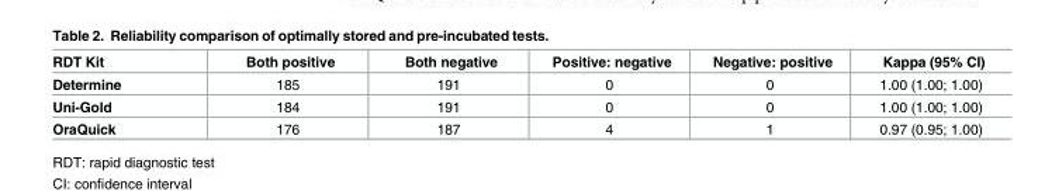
<table><thead><tr><td>RDT Kit</td><td>Both positive</td><td>Both negative</td><td>Positive: negative</td><td>Negative: positive</td><td>Kappa (95% CI)</td></tr></thead><tbody><tr><td>Determine</td><td>185</td><td>191</td><td>0</td><td>0</td><td>1.00 (1.00; 1.00)</td></tr><tr><td>Uni-Gold</td><td>184</td><td>191</td><td>0</td><td>0</td><td>1.00 (1.00; 1.00)</td></tr><tr><td>OraQuick</td><td>176</td><td>187</td><td>4</td><td>1</td><td>0.97 (0.95; 1.00)</td></tr></tbody></table>